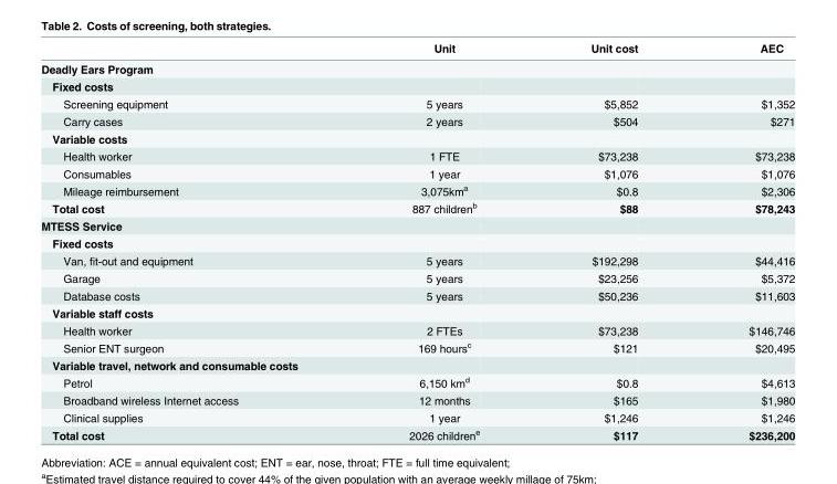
<table><thead><tr><td></td><td>Unit</td><td>Unit cost</td><td>AEC</td></tr></thead><tbody><tr><td colspan="4">Deadly Ears Program</td></tr><tr><td colspan="4">Fixed costs</td></tr><tr><td>Screening equipment</td><td>5 years</td><td>$5,852</td><td>$1,352</td></tr><tr><td>Carry cases</td><td>2 years</td><td>$504</td><td>$271</td></tr><tr><td colspan="4">Variable costs</td></tr><tr><td>Health worker</td><td>1 FTE</td><td>$73,238</td><td>$73,238</td></tr><tr><td>Consumables</td><td>1 year</td><td>$1,076</td><td>$1,076</td></tr><tr><td>Mileage reimbursement</td><td>3,075km<sup>a</sup></td><td>$0.8</td><td>$2,306</td></tr><tr><td>Total cost</td><td>887 children<sup>b</sup></td><td>$88</td><td>$78,243</td></tr><tr><td colspan="4">MTESS Service</td></tr><tr><td colspan="4">Fixed costs</td></tr><tr><td>Van, fit-out and equipment</td><td>5 years</td><td>$192,298</td><td>$44,416</td></tr><tr><td>Garage</td><td>5 years</td><td>$23,256</td><td>$5,372</td></tr><tr><td>Database costs</td><td>5 years</td><td>$50,236</td><td>$11,603</td></tr><tr><td colspan="4">Variable staff costs</td></tr><tr><td>Health worker</td><td>2 FTEs</td><td>$73,238</td><td>$146,746</td></tr><tr><td>Senior ENT surgeon</td><td>169 hours<sup>c</sup></td><td>$121</td><td>$20,495</td></tr><tr><td colspan="4">Variable travel, network and consumable costs</td></tr><tr><td>Petrol</td><td>6,150 km<sup>d</sup></td><td>$0.8</td><td>$4,613</td></tr><tr><td>Broadband wireless Internet access</td><td>12 months</td><td>$165</td><td>$1,980</td></tr><tr><td>Clinical supplies</td><td>1 year</td><td>$1,246</td><td>$1,246</td></tr><tr><td>Total cost</td><td>2026 children<sup>e</sup></td><td>$117</td><td>$236,200</td></tr></tbody></table>